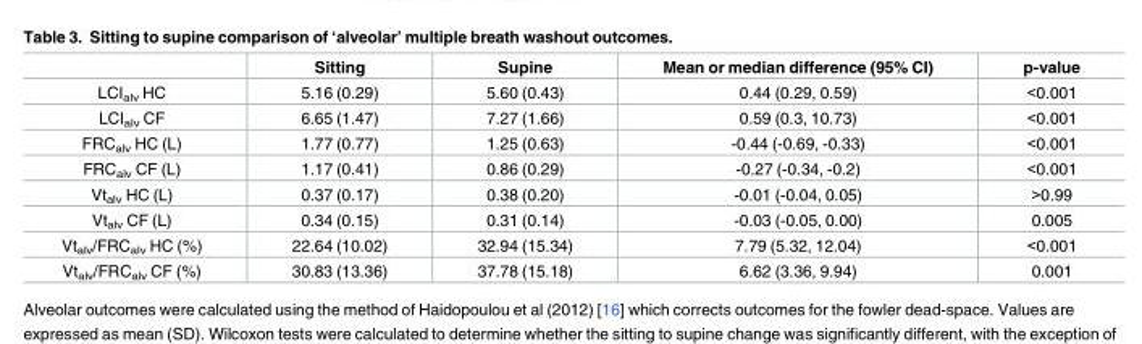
<table><thead><tr><td></td><td>Sitting</td><td>Supine</td><td>Mean or median difference (95% CI)</td><td>p-value</td></tr></thead><tbody><tr><td>LCI<sub>alv</sub> HC</td><td>5.16 (0.29)</td><td>5.60 (0.43)</td><td>0.44 (0.29, 0.59)</td><td>&lt;0.001</td></tr><tr><td>LCI<sub>alv</sub> CF</td><td>6.65 (1.47)</td><td>7.27 (1.66)</td><td>0.59 (0.3, 10.73)</td><td>&lt;0.001</td></tr><tr><td>FRC<sub>alv</sub> HC (L)</td><td>1.77 (0.77)</td><td>1.25 (0.63)</td><td>-0.44 (-0.69, -0.33)</td><td>&lt;0.001</td></tr><tr><td>FRC<sub>alv</sub> CF (L)</td><td>1.17 (0.41)</td><td>0.86 (0.29)</td><td>-0.27 (-0.34, -0.2)</td><td>&lt;0.001</td></tr><tr><td>Vt<sub>alv</sub> HC (L)</td><td>0.37 (0.17)</td><td>0.38 (0.20)</td><td>-0.01 (-0.04, 0.05)</td><td>&gt;0.99</td></tr><tr><td>Vt<sub>alv</sub> CF (L)</td><td>0.34 (0.15)</td><td>0.31 (0.14)</td><td>-0.03 (-0.05, 0.00)</td><td>0.005</td></tr><tr><td>Vt<sub>alv</sub>/FRC<sub>alv</sub> HC (%)</td><td>22.64 (10.02)</td><td>32.94 (15.34)</td><td>7.79 (5.32, 12.04)</td><td>&lt;0.001</td></tr><tr><td>Vt<sub>alv</sub>/FRC<sub>alv</sub> CF (%)</td><td>30.83 (13.36)</td><td>37.78 (15.18)</td><td>6.62 (3.36, 9.94)</td><td>0.001</td></tr></tbody></table>